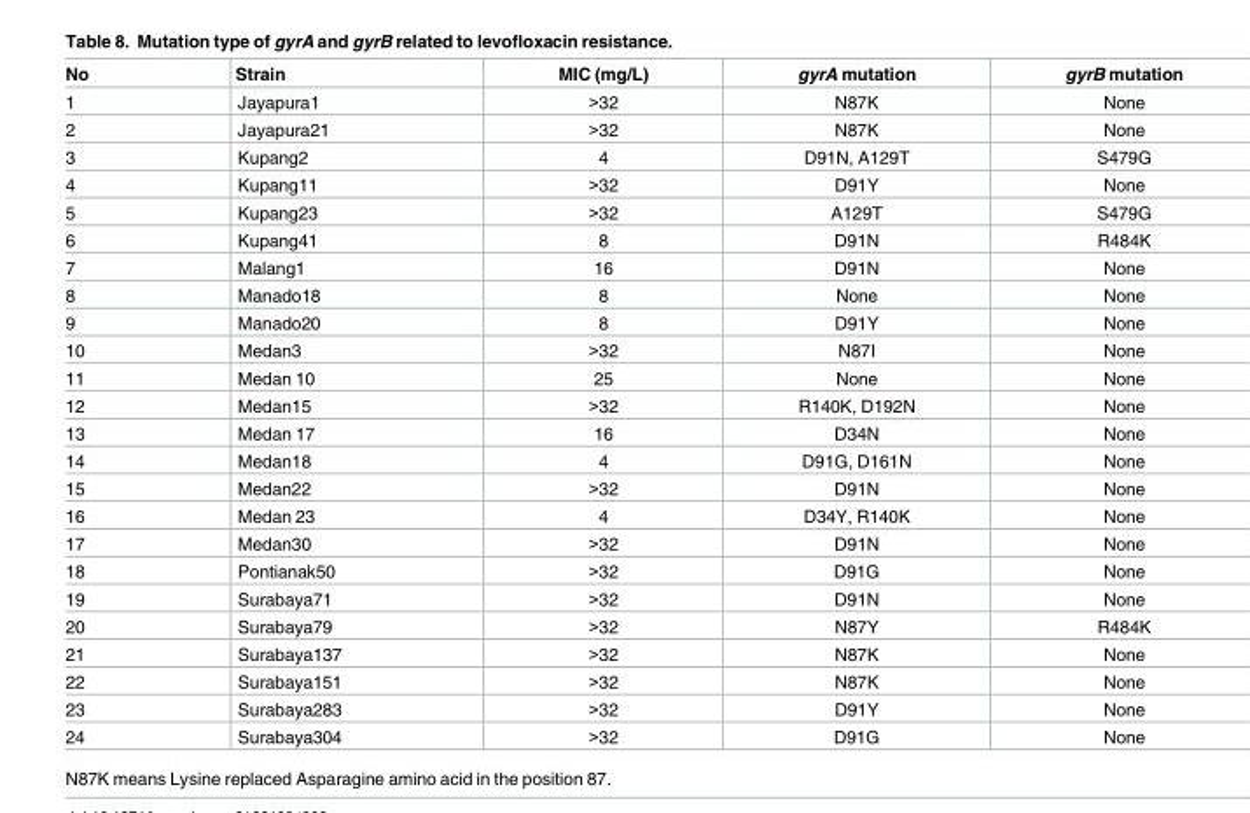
<table><thead><tr><td>No</td><td>Strain</td><td>MIC (mg/L)</td><td>gyrA mutation</td><td>gyrB mutation</td></tr></thead><tbody><tr><td>1</td><td>Jayapura1</td><td>&gt;32</td><td>N87K</td><td>None</td></tr><tr><td>2</td><td>Jayapura21</td><td>&gt;32</td><td>N87K</td><td>None</td></tr><tr><td>3</td><td>Kupang2</td><td>4</td><td>D91N, A129T</td><td>S479G</td></tr><tr><td>4</td><td>Kupang11</td><td>&gt;32</td><td>D91Y</td><td>None</td></tr><tr><td>5</td><td>Kupang23</td><td>&gt;32</td><td>A129T</td><td>S479G</td></tr><tr><td>6</td><td>Kupang41</td><td>8</td><td>D91N</td><td>R484K</td></tr><tr><td>7</td><td>Malang1</td><td>16</td><td>D91N</td><td>None</td></tr><tr><td>8</td><td>Manado18</td><td>8</td><td>None</td><td>None</td></tr><tr><td>9</td><td>Manado20</td><td>8</td><td>D91Y</td><td>None</td></tr><tr><td>10</td><td>Medan3</td><td>&gt;32</td><td>N87I</td><td>None</td></tr><tr><td>11</td><td>Medan 10</td><td>25</td><td>None</td><td>None</td></tr><tr><td>12</td><td>Medan15</td><td>&gt;32</td><td>R140K, D192N</td><td>None</td></tr><tr><td>13</td><td>Medan 17</td><td>16</td><td>D34N</td><td>None</td></tr><tr><td>14</td><td>Medan18</td><td>4</td><td>D91G, D161N</td><td>None</td></tr><tr><td>15</td><td>Medan22</td><td>&gt;32</td><td>D91N</td><td>None</td></tr><tr><td>16</td><td>Medan 23</td><td>4</td><td>D34Y, R140K</td><td>None</td></tr><tr><td>17</td><td>Medan30</td><td>&gt;32</td><td>D91N</td><td>None</td></tr><tr><td>18</td><td>Pontianak50</td><td>&gt;32</td><td>D91G</td><td>None</td></tr><tr><td>19</td><td>Surabaya71</td><td>&gt;32</td><td>D91N</td><td>None</td></tr><tr><td>20</td><td>Surabaya79</td><td>&gt;32</td><td>N87Y</td><td>R484K</td></tr><tr><td>21</td><td>Surabaya137</td><td>&gt;32</td><td>N87K</td><td>None</td></tr><tr><td>22</td><td>Surabaya151</td><td>&gt;32</td><td>N87K</td><td>None</td></tr><tr><td>23</td><td>Surabaya283</td><td>&gt;32</td><td>D91Y</td><td>None</td></tr><tr><td>24</td><td>Surabaya304</td><td>&gt;32</td><td>D91G</td><td>None</td></tr></tbody></table>